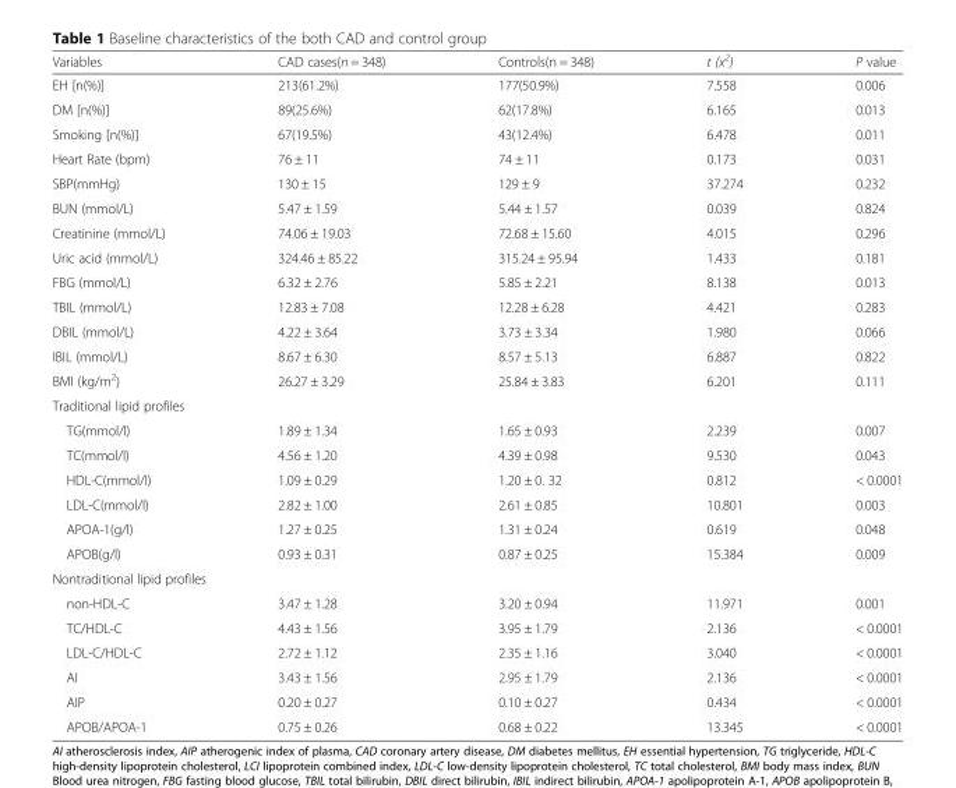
<table><thead><tr><td>Variables</td><td>CAD cases(n = 348)</td><td>Controls(n = 348)</td><td>t (x<sup>2</sup>)</td><td>P value</td></tr></thead><tbody><tr><td>EH [n(%)]</td><td>213(61.2%)</td><td>177(50.9%)</td><td>7.558</td><td>0.006</td></tr><tr><td>DM [n(%)]</td><td>89(25.6%)</td><td>62(17.8%)</td><td>6.165</td><td>0.013</td></tr><tr><td>Smoking [n(%)]</td><td>67(19.5%)</td><td>43(12.4%)</td><td>6.478</td><td>0.011</td></tr><tr><td>Heart Rate (bpm)</td><td>76 ± 11</td><td>74 ± 11</td><td>0.173</td><td>0.031</td></tr><tr><td>SBP(mmHg)</td><td>130 ± 15</td><td>129 ± 9</td><td>37.274</td><td>0.232</td></tr><tr><td>BUN (mmol/L)</td><td>5.47 ± 1.59</td><td>5.44 ± 1.57</td><td>0.039</td><td>0.824</td></tr><tr><td>Creatinine (mmol/L)</td><td>74.06 ± 19.03</td><td>72.68 ± 15.60</td><td>4.015</td><td>0.296</td></tr><tr><td>Uric acid (mmol/L)</td><td>324.46 ± 85.22</td><td>315.24 ± 95.94</td><td>1.433</td><td>0.181</td></tr><tr><td>FBG (mmol/L)</td><td>6.32 ± 2.76</td><td>5.85 ± 2.21</td><td>8.138</td><td>0.013</td></tr><tr><td>TBIL (mmol/L)</td><td>12.83 ± 7.08</td><td>12.28 ± 6.28</td><td>4.421</td><td>0.283</td></tr><tr><td>DBIL (mmol/L)</td><td>4.22 ± 3.64</td><td>3.73 ± 3.34</td><td>1.980</td><td>0.066</td></tr><tr><td>IBIL (mmol/L)</td><td>8.67 ± 6.30</td><td>8.57 ± 5.13</td><td>6.887</td><td>0.822</td></tr><tr><td>BMI (kg/m<sup>2</sup>)</td><td>26.27 ± 3.29</td><td>25.84 ± 3.83</td><td>6.201</td><td>0.111</td></tr><tr><td colspan="5">Traditional lipid profiles</td></tr><tr><td>TG(mmol/l)</td><td>1.89 ± 1.34</td><td>1.65 ± 0.93</td><td>2.239</td><td>0.007</td></tr><tr><td>TC(mmol/l)</td><td>4.56 ± 1.20</td><td>4.39 ± 0.98</td><td>9.530</td><td>0.043</td></tr><tr><td>HDL-C(mmol/l)</td><td>1.09 ± 0.29</td><td>1.20 ± 0. 32</td><td>0.812</td><td>&lt; 0.0001</td></tr><tr><td>LDL-C(mmol/l)</td><td>2.82 ± 1.00</td><td>2.61 ± 0.85</td><td>10.801</td><td>0.003</td></tr><tr><td>APOA-1(g/l)</td><td>1.27 ± 0.25</td><td>1.31 ± 0.24</td><td>0.619</td><td>0.048</td></tr><tr><td>APOB(g/l)</td><td>0.93 ± 0.31</td><td>0.87 ± 0.25</td><td>15.384</td><td>0.009</td></tr><tr><td colspan="5">Nontraditional lipid profiles</td></tr><tr><td>non-HDL-C</td><td>3.47 ± 1.28</td><td>3.20 ± 0.94</td><td>11.971</td><td>0.001</td></tr><tr><td>TC/HDL-C</td><td>4.43 ± 1.56</td><td>3.95 ± 1.79</td><td>2.136</td><td>&lt; 0.0001</td></tr><tr><td>LDL-C/HDL-C</td><td>2.72 ± 1.12</td><td>2.35 ± 1.16</td><td>3.040</td><td>&lt; 0.0001</td></tr><tr><td>AI</td><td>3.43 ± 1.56</td><td>2.95 ± 1.79</td><td>2.136</td><td>&lt; 0.0001</td></tr><tr><td>AIP</td><td>0.20 ± 0.27</td><td>0.10 ± 0.27</td><td>0.434</td><td>&lt; 0.0001</td></tr><tr><td>APOB/APOA-1</td><td>0.75 ± 0.26</td><td>0.68 ± 0.22</td><td>13.345</td><td>&lt; 0.0001</td></tr></tbody></table>